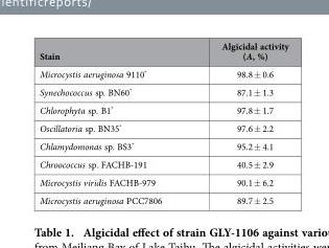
<table><thead><tr><td>Stain</td><td>Algicidal activity (A, %)</td></tr></thead><tbody><tr><td>Microcystis aeruginosa 9110*</td><td>98.8 ± 0.6</td></tr><tr><td>Synechococcus sp. BN60*</td><td>87.1 ± 1.3</td></tr><tr><td>Chlorophyta sp. B1*</td><td>97.8 ± 1.7</td></tr><tr><td>Oscillatoria sp. BN35*</td><td>97.6 ± 2.2</td></tr><tr><td>Chlamydomonas sp. BS3*</td><td>95.2 ± 4.1</td></tr><tr><td>Chroococcus sp. FACHB-191</td><td>40.5 ± 2.9</td></tr><tr><td>Microcystis viridis FACHB-979</td><td>90.1 ± 6.2</td></tr><tr><td>Microcystis aeruginosa PCC7806</td><td>89.7 ± 2.5</td></tr></tbody></table>